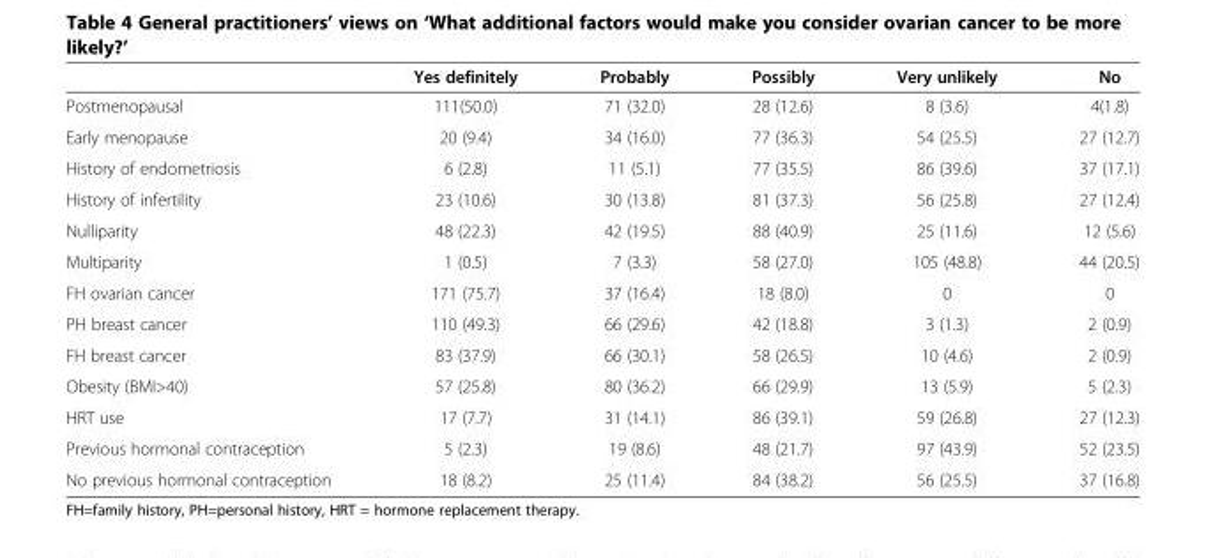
<table><thead><tr><td></td><td>Yes definitely</td><td>Probably</td><td>Possibly</td><td>Very unlikely</td><td>No</td></tr></thead><tbody><tr><td>Postmenopausal</td><td>111(50.0)</td><td>71 (32.0)</td><td>28 (12.6)</td><td>8 (3.6)</td><td>4(1.8)</td></tr><tr><td>Early menopause</td><td>20 (9.4)</td><td>34 (16.0)</td><td>77 (36.3)</td><td>54 (25.5)</td><td>27 (12.7)</td></tr><tr><td>History of endometriosis</td><td>6 (2.8)</td><td>11 (5.1)</td><td>77 (35.5)</td><td>86 (39.6)</td><td>37 (17.1)</td></tr><tr><td>History of infertility</td><td>23 (10.6)</td><td>30 (13.8)</td><td>81 (37.3)</td><td>56 (25.8)</td><td>27 (12.4)</td></tr><tr><td>Nulliparity</td><td>48 (22.3)</td><td>42 (19.5)</td><td>88 (40.9)</td><td>25 (11.6)</td><td>12 (5.6)</td></tr><tr><td>Multiparity</td><td>1 (0.5)</td><td>7 (3.3)</td><td>58 (27.0)</td><td>105 (48.8)</td><td>44 (20.5)</td></tr><tr><td>FH ovarian cancer</td><td>171 (75.7)</td><td>37 (16.4)</td><td>18 (8.0)</td><td>0</td><td>0</td></tr><tr><td>PH breast cancer</td><td>110 (49.3)</td><td>66 (29.6)</td><td>42 (18.8)</td><td>3 (1.3)</td><td>2 (0.9)</td></tr><tr><td>FH breast cancer</td><td>83 (37.9)</td><td>66 (30.1)</td><td>58 (26.5)</td><td>10 (4.6)</td><td>2 (0.9)</td></tr><tr><td>Obesity (BMI&gt;40)</td><td>57 (25.8)</td><td>80 (36.2)</td><td>66 (29.9)</td><td>13 (5.9)</td><td>5 (2.3)</td></tr><tr><td>HRT use</td><td>17 (7.7)</td><td>31 (14.1)</td><td>86 (39.1)</td><td>59 (26.8)</td><td>27 (12.3)</td></tr><tr><td>Previous hormonal contraception</td><td>5 (2.3)</td><td>19 (8.6)</td><td>48 (21.7)</td><td>97 (43.9)</td><td>52 (23.5)</td></tr><tr><td>No previous hormonal contraception</td><td>18 (8.2)</td><td>25 (11.4)</td><td>84 (38.2)</td><td>56 (25.5)</td><td>37 (16.8)</td></tr></tbody></table>